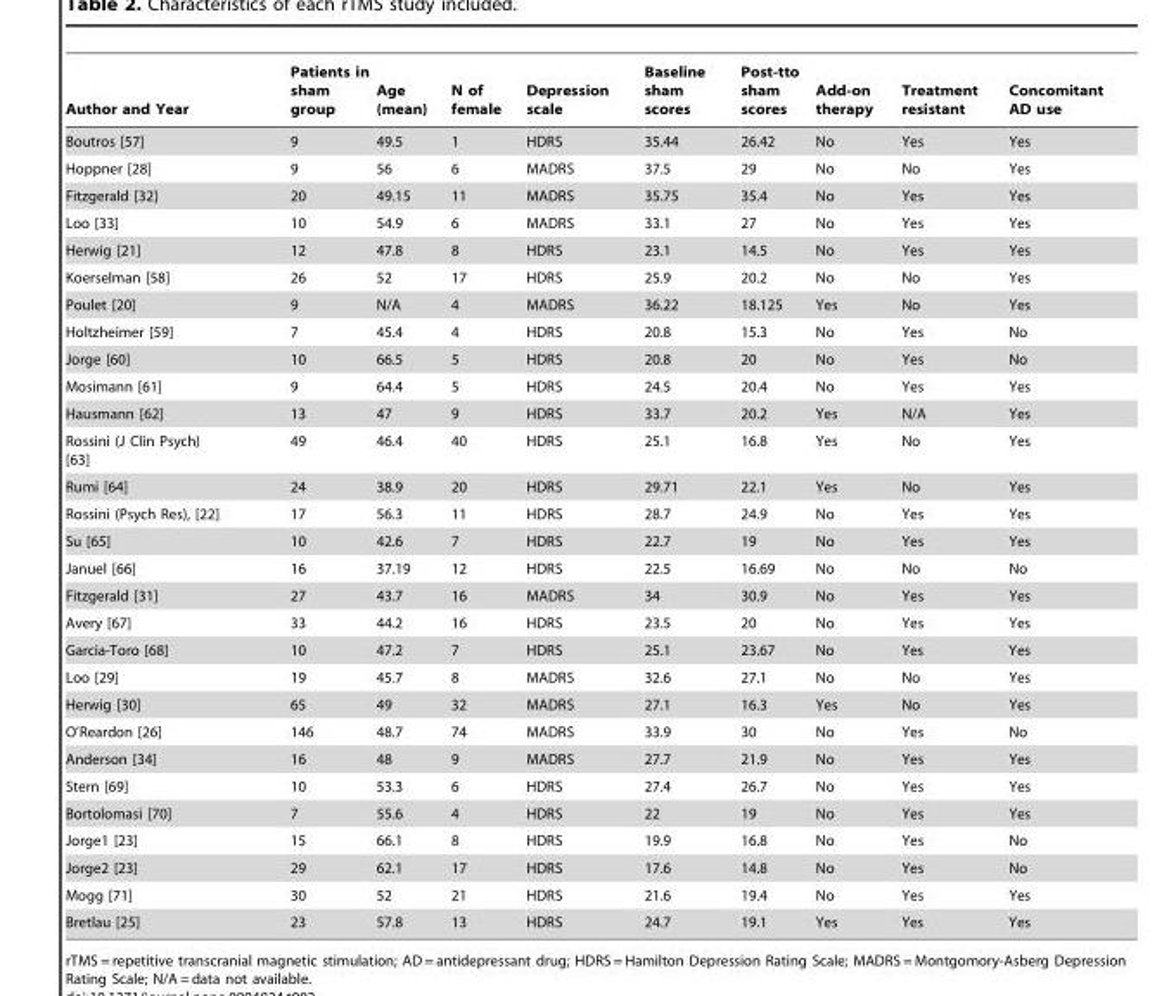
<table><thead><tr><td>Author and Year</td><td>Patients in sham group</td><td>Age (mean)</td><td>N of female</td><td>Depression scale</td><td>Baseline sham scores</td><td>Post-tto sham scores</td><td>Add-on therapy</td><td>Treatment resistant</td><td>Concomitant AD use</td></tr></thead><tbody><tr><td>Boutros [57]</td><td>9</td><td>49.5</td><td>1</td><td>HDRS</td><td>35.44</td><td>26.42</td><td>No</td><td>Yes</td><td>Yes</td></tr><tr><td>Hoppner [28]</td><td>9</td><td>56</td><td>6</td><td>MADRS</td><td>37.5</td><td>29</td><td>No</td><td>No</td><td>Yes</td></tr><tr><td>Fitzgerald [32]</td><td>20</td><td>49.15</td><td>11</td><td>MADRS</td><td>35.75</td><td>35.4</td><td>No</td><td>Yes</td><td>Yes</td></tr><tr><td>Loo [33]</td><td>10</td><td>54.9</td><td>6</td><td>MADRS</td><td>33.1</td><td>27</td><td>No</td><td>Yes</td><td>Yes</td></tr><tr><td>Herwig [21]</td><td>12</td><td>47.8</td><td>8</td><td>HDRS</td><td>23.1</td><td>14.5</td><td>No</td><td>Yes</td><td>Yes</td></tr><tr><td>Koerselman [58]</td><td>26</td><td>52</td><td>17</td><td>HDRS</td><td>25.9</td><td>20.2</td><td>No</td><td>No</td><td>Yes</td></tr><tr><td>Poulet [20]</td><td>9</td><td>N/A</td><td>4</td><td>MADRS</td><td>36.22</td><td>18.125</td><td>Yes</td><td>No</td><td>Yes</td></tr><tr><td>Holtzheimer [59]</td><td>7</td><td>45.4</td><td>4</td><td>HDRS</td><td>20.8</td><td>15.3</td><td>No</td><td>Yes</td><td>No</td></tr><tr><td>Jorge [60]</td><td>10</td><td>66.5</td><td>5</td><td>HDRS</td><td>20.8</td><td>20</td><td>No</td><td>Yes</td><td>No</td></tr><tr><td>Mosimann [61]</td><td>9</td><td>64.4</td><td>5</td><td>HDRS</td><td>24.5</td><td>20.4</td><td>No</td><td>Yes</td><td>Yes</td></tr><tr><td>Hausmann [62]</td><td>13</td><td>47</td><td>9</td><td>HDRS</td><td>33.7</td><td>20.2</td><td>Yes</td><td>N/A</td><td>Yes</td></tr><tr><td>Rossini (J Clin Psych) [63]</td><td>49</td><td>46.4</td><td>40</td><td>HDRS</td><td>25.1</td><td>16.8</td><td>Yes</td><td>No</td><td>Yes</td></tr><tr><td>Rumi [64]</td><td>24</td><td>38.9</td><td>20</td><td>HDRS</td><td>29.71</td><td>22.1</td><td>Yes</td><td>No</td><td>Yes</td></tr><tr><td>Rossini (Psych Res), [22]</td><td>17</td><td>56.3</td><td>11</td><td>HDRS</td><td>28.7</td><td>24.9</td><td>No</td><td>Yes</td><td>Yes</td></tr><tr><td>Su [65]</td><td>10</td><td>42.6</td><td>7</td><td>HDRS</td><td>22.7</td><td>19</td><td>No</td><td>Yes</td><td>Yes</td></tr><tr><td>Januel [66]</td><td>16</td><td>37.19</td><td>12</td><td>HDRS</td><td>22.5</td><td>16.69</td><td>No</td><td>No</td><td>No</td></tr><tr><td>Fitzgerald [31]</td><td>27</td><td>43.7</td><td>16</td><td>MADRS</td><td>34</td><td>30.9</td><td>No</td><td>Yes</td><td>Yes</td></tr><tr><td>Avery [67]</td><td>33</td><td>44.2</td><td>16</td><td>HDRS</td><td>23.5</td><td>20</td><td>No</td><td>Yes</td><td>Yes</td></tr><tr><td>Garcia-Toro [68]</td><td>10</td><td>47.2</td><td>7</td><td>HDRS</td><td>25.1</td><td>23.67</td><td>No</td><td>Yes</td><td>Yes</td></tr><tr><td>Loo [29]</td><td>19</td><td>45.7</td><td>8</td><td>MADRS</td><td>32.6</td><td>27.1</td><td>No</td><td>No</td><td>Yes</td></tr><tr><td>Herwig [30]</td><td>65</td><td>49</td><td>32</td><td>MADRS</td><td>27.1</td><td>16.3</td><td>Yes</td><td>No</td><td>Yes</td></tr><tr><td>O’Reardon [26]</td><td>146</td><td>48.7</td><td>74</td><td>MADRS</td><td>33.9</td><td>30</td><td>No</td><td>Yes</td><td>No</td></tr><tr><td>Anderson [34]</td><td>16</td><td>48</td><td>9</td><td>MADRS</td><td>27.7</td><td>21.9</td><td>No</td><td>Yes</td><td>Yes</td></tr><tr><td>Stern [69]</td><td>10</td><td>53.3</td><td>6</td><td>HDRS</td><td>27.4</td><td>26.7</td><td>No</td><td>Yes</td><td>Yes</td></tr><tr><td>Bortolomasi [70]</td><td>7</td><td>55.6</td><td>4</td><td>HDRS</td><td>22</td><td>19</td><td>No</td><td>Yes</td><td>Yes</td></tr><tr><td>Jorge1 [23]</td><td>15</td><td>66.1</td><td>8</td><td>HDRS</td><td>19.9</td><td>16.8</td><td>No</td><td>Yes</td><td>No</td></tr><tr><td>Jorge2 [23]</td><td>29</td><td>62.1</td><td>17</td><td>HDRS</td><td>17.6</td><td>14.8</td><td>No</td><td>Yes</td><td>No</td></tr><tr><td>Mogg [71]</td><td>30</td><td>52</td><td>21</td><td>HDRS</td><td>21.6</td><td>19.4</td><td>No</td><td>Yes</td><td>Yes</td></tr><tr><td>Bretlau [25]</td><td>23</td><td>57.8</td><td>13</td><td>HDRS</td><td>24.7</td><td>19.1</td><td>Yes</td><td>Yes</td><td>Yes</td></tr></tbody></table>